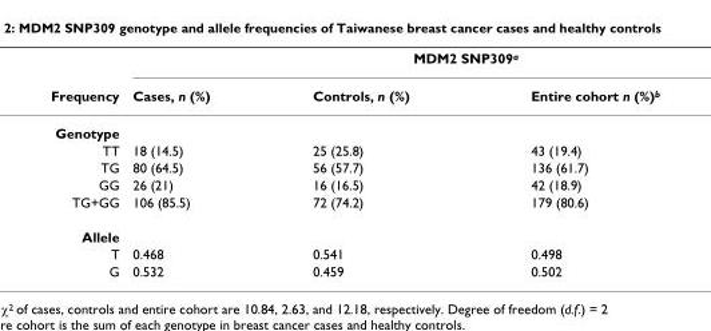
<table><thead><tr><td rowspan="2">Frequency</td><td colspan="3">MDM2 SNP309<sup>a</sup></td></tr><tr><td>Cases, n (%)</td><td>Controls, n (%)</td><td>Entire cohort n (%)<sup>b</sup></td></tr></thead><tbody><tr><td colspan="4">Genotype</td></tr><tr><td>TT</td><td>18 (14.5)</td><td>25 (25.8)</td><td>43 (19.4)</td></tr><tr><td>TG</td><td>80 (64.5)</td><td>56 (57.7)</td><td>136 (61.7)</td></tr><tr><td>GG</td><td>26 (21)</td><td>16 (16.5)</td><td>42 (18.9)</td></tr><tr><td>TG+GG</td><td>106 (85.5)</td><td>72 (74.2)</td><td>179 (80.6)</td></tr><tr><td colspan="4">Allele</td></tr><tr><td>T</td><td>0.468</td><td>0.541</td><td>0.498</td></tr><tr><td>G</td><td>0.532</td><td>0.459</td><td>0.502</td></tr></tbody></table>